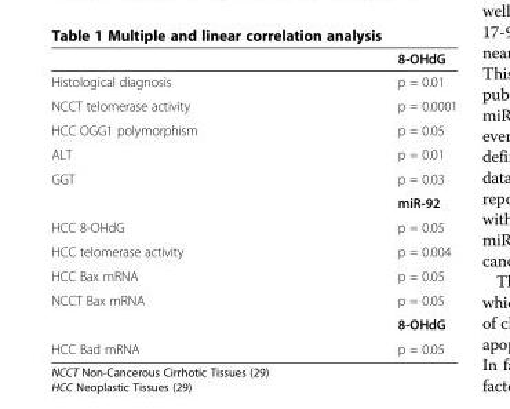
<table><thead><tr><td></td><td>8-OHdG</td></tr></thead><tbody><tr><td>Histological diagnosis</td><td>p = 0.01</td></tr><tr><td>NCCT telomerase activity</td><td>p = 0.0001</td></tr><tr><td>HCC OGG1 polymorphism</td><td>p = 0.05</td></tr><tr><td>ALT</td><td>p = 0.01</td></tr><tr><td rowspan="2">GGT</td><td>p = 0.03</td></tr><tr><td>miR-92</td></tr><tr><td>HCC 8-OHdG</td><td>p = 0.05</td></tr><tr><td>HCC telomerase activity</td><td>p = 0.004</td></tr><tr><td>HCC Bax mRNA</td><td>p = 0.05</td></tr><tr><td rowspan="2">NCCT Bax mRNA</td><td>p = 0.05</td></tr><tr><td>8-OHdG</td></tr><tr><td>HCC Bad mRNA</td><td>p = 0.05</td></tr></tbody></table>